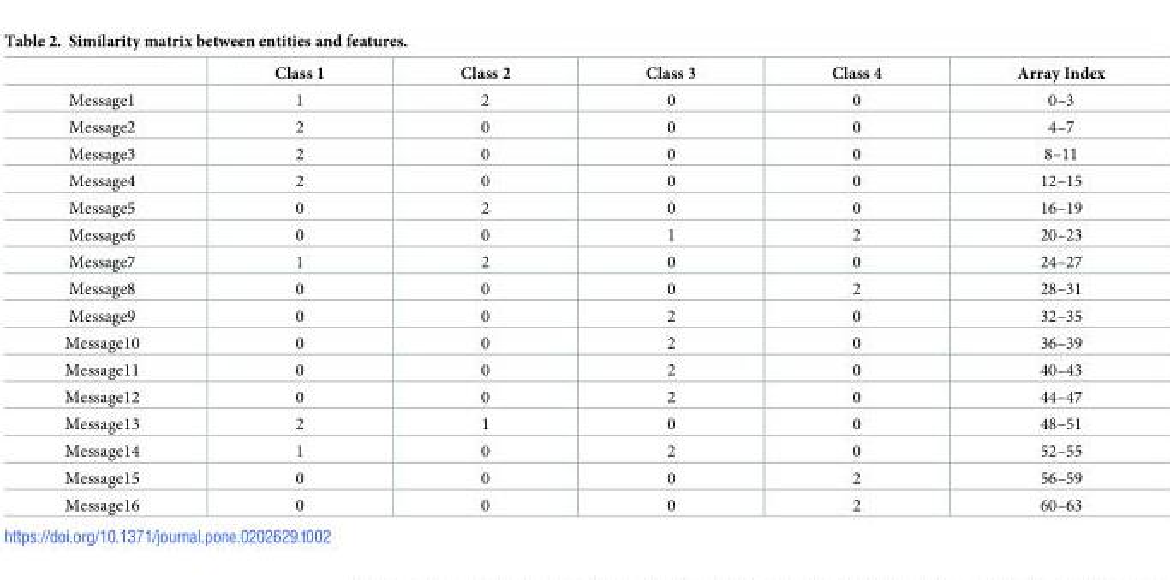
<table><thead><tr><td></td><td>Class 1</td><td>Class 2</td><td>Class 3</td><td>Class 4</td><td>Array Index</td></tr></thead><tbody><tr><td>Message1</td><td>1</td><td>2</td><td>0</td><td>0</td><td>0–3</td></tr><tr><td>Message2</td><td>2</td><td>0</td><td>0</td><td>0</td><td>4–7</td></tr><tr><td>Message3</td><td>2</td><td>0</td><td>0</td><td>0</td><td>8–11</td></tr><tr><td>Message4</td><td>2</td><td>0</td><td>0</td><td>0</td><td>12–15</td></tr><tr><td>Message5</td><td>0</td><td>2</td><td>0</td><td>0</td><td>16–19</td></tr><tr><td>Message6</td><td>0</td><td>0</td><td>1</td><td>2</td><td>20–23</td></tr><tr><td>Message7</td><td>1</td><td>2</td><td>0</td><td>0</td><td>24–27</td></tr><tr><td>Message8</td><td>0</td><td>0</td><td>0</td><td>2</td><td>28–31</td></tr><tr><td>Message9</td><td>0</td><td>0</td><td>2</td><td>0</td><td>32–35</td></tr><tr><td>Message10</td><td>0</td><td>0</td><td>2</td><td>0</td><td>36–39</td></tr><tr><td>Message11</td><td>0</td><td>0</td><td>2</td><td>0</td><td>40–43</td></tr><tr><td>Message12</td><td>0</td><td>0</td><td>2</td><td>0</td><td>44–47</td></tr><tr><td>Message13</td><td>2</td><td>1</td><td>0</td><td>0</td><td>48–51</td></tr><tr><td>Message14</td><td>1</td><td>0</td><td>2</td><td>0</td><td>52–55</td></tr><tr><td>Message15</td><td>0</td><td>0</td><td>0</td><td>2</td><td>56–59</td></tr><tr><td>Message16</td><td>0</td><td>0</td><td>0</td><td>2</td><td>60–63</td></tr></tbody></table>